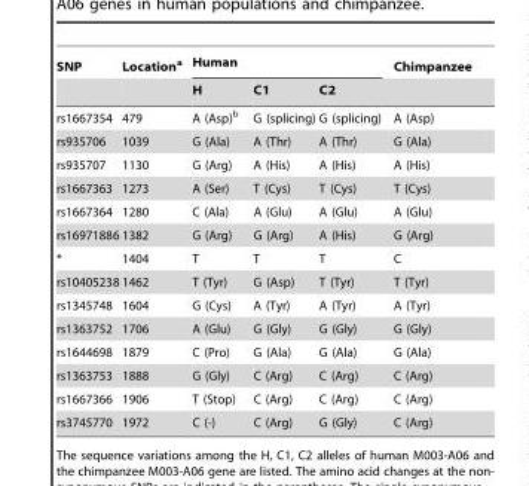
<table><thead><tr><td rowspan="2">SNP</td><td rowspan="2">Location<sup>a</sup></td><td colspan="3">Human</td><td rowspan="2">Chimpanzee</td></tr><tr><td>H</td><td>C1</td><td>C2</td></tr></thead><tbody><tr><td>rs1667354</td><td>479</td><td>A (Asp)<sup>b</sup></td><td>G (splicing)</td><td>G (splicing)</td><td>A (Asp)</td></tr><tr><td>rs935706</td><td>1039</td><td>G (Ala)</td><td>A (Thr)</td><td>A (Thr)</td><td>G (Ala)</td></tr><tr><td>rs935707</td><td>1130</td><td>G (Arg)</td><td>A (His)</td><td>A (His)</td><td>A (His)</td></tr><tr><td>rs1667363</td><td>1273</td><td>A (Ser)</td><td>T (Cys)</td><td>T (Cys)</td><td>T (Cys)</td></tr><tr><td>rs1667364</td><td>1280</td><td>C (Ala)</td><td>A (Glu)</td><td>A (Glu)</td><td>A (Glu)</td></tr><tr><td>rs16971886</td><td>1382</td><td>G (Arg)</td><td>G (Arg)</td><td>A (His)</td><td>G (Arg)</td></tr><tr><td>*</td><td>1404</td><td>T</td><td>T</td><td>T</td><td>C</td></tr><tr><td>rs10405238</td><td>1462</td><td>T (Tyr)</td><td>G (Asp)</td><td>T (Tyr)</td><td>T (Tyr)</td></tr><tr><td>rs1345748</td><td>1604</td><td>G (Cys)</td><td>A (Tyr)</td><td>A (Tyr)</td><td>A (Tyr)</td></tr><tr><td>rs1363752</td><td>1706</td><td>A (Glu)</td><td>G (Gly)</td><td>G (Gly)</td><td>G (Gly)</td></tr><tr><td>rs1644698</td><td>1879</td><td>C (Pro)</td><td>G (Ala)</td><td>G (Ala)</td><td>G (Ala)</td></tr><tr><td>rs1363753</td><td>1888</td><td>G (Gly)</td><td>C (Arg)</td><td>C (Arg)</td><td>C (Arg)</td></tr><tr><td>rs1667366</td><td>1906</td><td>T (Stop)</td><td>C (Arg)</td><td>C (Arg)</td><td>C (Arg)</td></tr><tr><td>rs3745770</td><td>1972</td><td>C (-)</td><td>C (Arg)</td><td>G (Gly)</td><td>C (Arg)</td></tr></tbody></table>